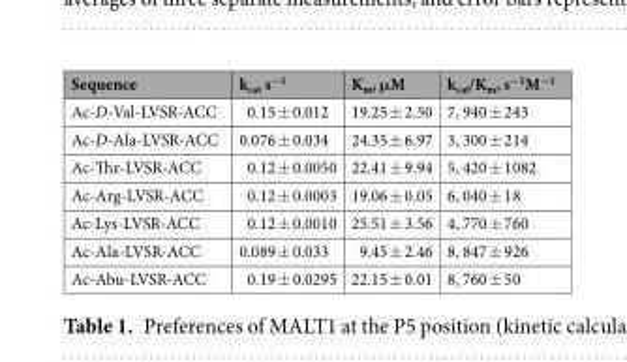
<table><thead><tr><td>Sequence</td><td>k<sub>cat</sub> s<sup>−1</sup></td><td>K<sub>m</sub>, μM</td><td>k<sub>cat</sub>/K<sub>m</sub>, s<sup>−1</sup>M<sup>−1</sup></td></tr></thead><tbody><tr><td>Ac-D-Val-LVSR-ACC</td><td>0.15 ± 0.012</td><td>19.25 ± 2.50</td><td>7, 940 ± 243</td></tr><tr><td>Ac-D-Ala-LVSR-ACC</td><td>0.076 ± 0.034</td><td>24.35 ± 6.97</td><td>3, 300 ± 214</td></tr><tr><td>Ac-Thr-LVSR-ACC</td><td>0.12 ± 0.0050</td><td>22.41 ± 9.94</td><td>5, 420 ± 1082</td></tr><tr><td>Ac-Arg-LVSR-ACC</td><td>0.12 ± 0.0003</td><td>19.06 ± 0.05</td><td>6, 040 ± 18</td></tr><tr><td>Ac-Lys-LVSR-ACC</td><td>0.12 ± 0.0010</td><td>25.51 ± 3.56</td><td>4, 770 ± 760</td></tr><tr><td>Ac-Ala-LVSR-ACC</td><td>0.089 ± 0.033</td><td>9.45 ± 2.46</td><td>8, 847 ± 926</td></tr><tr><td>Ac-Abu-LVSR-ACC</td><td>0.19 ± 0.0295</td><td>22.15 ± 0.01</td><td>8, 760 ± 50</td></tr></tbody></table>